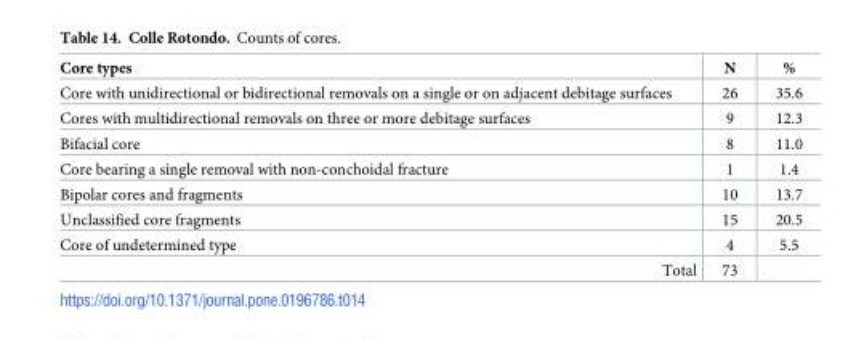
<table><thead><tr><td>Core types</td><td>N</td><td>%</td></tr></thead><tbody><tr><td>Core with unidirectional or bidirectional removals on a single or on adjacent debitage surfaces</td><td>26</td><td>35.6</td></tr><tr><td>Cores with multidirectional removals on three or more debitage surfaces</td><td>9</td><td>12.3</td></tr><tr><td>Bifacial core</td><td>8</td><td>11.0</td></tr><tr><td>Core bearing a single removal with non-conchoidal fracture</td><td>1</td><td>1.4</td></tr><tr><td>Bipolar cores and fragments</td><td>10</td><td>13.7</td></tr><tr><td>Unclassified core fragments</td><td>15</td><td>20.5</td></tr><tr><td>Core of undetermined type</td><td>4</td><td>5.5</td></tr><tr><td>Total</td><td>73</td><td></td></tr></tbody></table>